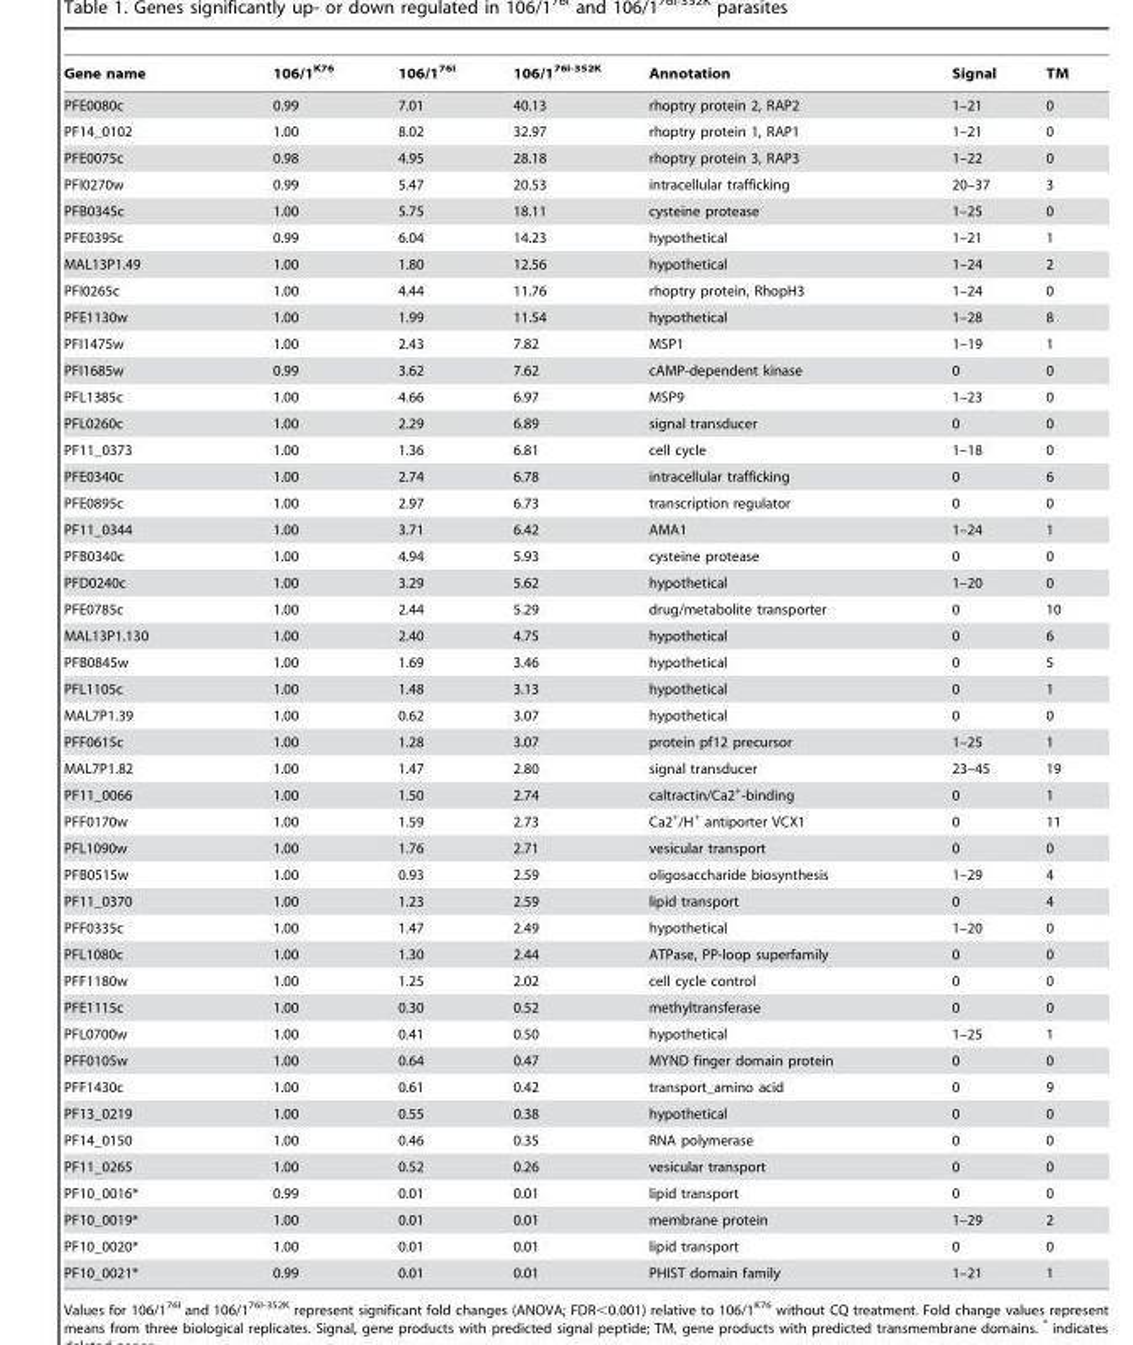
<table><thead><tr><td>Gene name</td><td>106/1<sup>K76</sup></td><td>106/1<sup>76I</sup></td><td>106/1<sup>76I-352K</sup></td><td>Annotation</td><td>Signal</td><td>TM</td></tr></thead><tbody><tr><td>PFE0080c</td><td>0.99</td><td>7.01</td><td>40.13</td><td>rhoptry protein 2, RAP2</td><td>1–21</td><td>0</td></tr><tr><td>PF14_0102</td><td>1.00</td><td>8.02</td><td>32.97</td><td>rhoptry protein 1, RAP1</td><td>1–21</td><td>0</td></tr><tr><td>PFE0075c</td><td>0.98</td><td>4.95</td><td>28.18</td><td>rhoptry protein 3, RAP3</td><td>1–22</td><td>0</td></tr><tr><td>PFI0270w</td><td>0.99</td><td>5.47</td><td>20.53</td><td>intracellular trafficking</td><td>20–37</td><td>3</td></tr><tr><td>PFB0345c</td><td>1.00</td><td>5.75</td><td>18.11</td><td>cysteine protease</td><td>1–25</td><td>0</td></tr><tr><td>PFE0395c</td><td>0.99</td><td>6.04</td><td>14.23</td><td>hypothetical</td><td>1–21</td><td>1</td></tr><tr><td>MAL13P1.49</td><td>1.00</td><td>1.80</td><td>12.56</td><td>hypothetical</td><td>1–24</td><td>2</td></tr><tr><td>PFI0265c</td><td>1.00</td><td>4.44</td><td>11.76</td><td>rhoptry protein, RhopH3</td><td>1–24</td><td>0</td></tr><tr><td>PFE1130w</td><td>1.00</td><td>1.99</td><td>11.54</td><td>hypothetical</td><td>1–28</td><td>8</td></tr><tr><td>PFI1475w</td><td>1.00</td><td>2.43</td><td>7.82</td><td>MSP1</td><td>1–19</td><td>1</td></tr><tr><td>PFI1685w</td><td>0.99</td><td>3.62</td><td>7.62</td><td>cAMP-dependent kinase</td><td>0</td><td>0</td></tr><tr><td>PFL1385c</td><td>1.00</td><td>4.66</td><td>6.97</td><td>MSP9</td><td>1–23</td><td>0</td></tr><tr><td>PFL0260c</td><td>1.00</td><td>2.29</td><td>6.89</td><td>signal transducer</td><td>0</td><td>0</td></tr><tr><td>PF11_0373</td><td>1.00</td><td>1.36</td><td>6.81</td><td>cell cycle</td><td>1–18</td><td>0</td></tr><tr><td>PFE0340c</td><td>1.00</td><td>2.74</td><td>6.78</td><td>intracellular trafficking</td><td>0</td><td>6</td></tr><tr><td>PFE0895c</td><td>1.00</td><td>2.97</td><td>6.73</td><td>transcription regulator</td><td>0</td><td>0</td></tr><tr><td>PF11_0344</td><td>1.00</td><td>3.71</td><td>6.42</td><td>AMA1</td><td>1–24</td><td>1</td></tr><tr><td>PFB0340c</td><td>1.00</td><td>4.94</td><td>5.93</td><td>cysteine protease</td><td>0</td><td>0</td></tr><tr><td>PFD0240c</td><td>1.00</td><td>3.29</td><td>5.62</td><td>hypothetical</td><td>1–20</td><td>0</td></tr><tr><td>PFE0785c</td><td>1.00</td><td>2.44</td><td>5.29</td><td>drug/metabolite transporter</td><td>0</td><td>10</td></tr><tr><td>MAL13P1.130</td><td>1.00</td><td>2.40</td><td>4.75</td><td>hypothetical</td><td>0</td><td>6</td></tr><tr><td>PFB0845w</td><td>1.00</td><td>1.69</td><td>3.46</td><td>hypothetical</td><td>0</td><td>5</td></tr><tr><td>PFL1105c</td><td>1.00</td><td>1.48</td><td>3.13</td><td>hypothetical</td><td>0</td><td>1</td></tr><tr><td>MAL7P1.39</td><td>1.00</td><td>0.62</td><td>3.07</td><td>hypothetical</td><td>0</td><td>0</td></tr><tr><td>PFF0615c</td><td>1.00</td><td>1.28</td><td>3.07</td><td>protein pf12 precursor</td><td>1–25</td><td>1</td></tr><tr><td>MAL7P1.82</td><td>1.00</td><td>1.47</td><td>2.80</td><td>signal transducer</td><td>23–45</td><td>19</td></tr><tr><td>PF11_0066</td><td>1.00</td><td>1.50</td><td>2.74</td><td>caltractin/Ca2<sup>+</sup>-binding</td><td>0</td><td>1</td></tr><tr><td>PFF0170w</td><td>1.00</td><td>1.59</td><td>2.73</td><td>Ca2<sup>+</sup>/H<sup>+</sup> antiporter VCX1</td><td>0</td><td>11</td></tr><tr><td>PFL1090w</td><td>1.00</td><td>1.76</td><td>2.71</td><td>vesicular transport</td><td>0</td><td>0</td></tr><tr><td>PFB0515w</td><td>1.00</td><td>0.93</td><td>2.59</td><td>oligosaccharide biosynthesis</td><td>1–29</td><td>4</td></tr><tr><td>PF11_0370</td><td>1.00</td><td>1.23</td><td>2.59</td><td>lipid transport</td><td>0</td><td>4</td></tr><tr><td>PFF0335c</td><td>1.00</td><td>1.47</td><td>2.49</td><td>hypothetical</td><td>1–20</td><td>0</td></tr><tr><td>PFL1080c</td><td>1.00</td><td>1.30</td><td>2.44</td><td>ATPase, PP-loop superfamily</td><td>0</td><td>0</td></tr><tr><td>PFF1180w</td><td>1.00</td><td>1.25</td><td>2.02</td><td>cell cycle control</td><td>0</td><td>0</td></tr><tr><td>PFE1115c</td><td>1.00</td><td>0.30</td><td>0.52</td><td>methyltransferase</td><td>0</td><td>0</td></tr><tr><td>PFL0700w</td><td>1.00</td><td>0.41</td><td>0.50</td><td>hypothetical</td><td>1–25</td><td>1</td></tr><tr><td>PFF0105w</td><td>1.00</td><td>0.64</td><td>0.47</td><td>MYND finger domain protein</td><td>0</td><td>0</td></tr><tr><td>PFF1430c</td><td>1.00</td><td>0.61</td><td>0.42</td><td>transport_amino acid</td><td>0</td><td>9</td></tr><tr><td>PF13_0219</td><td>1.00</td><td>0.55</td><td>0.38</td><td>hypothetical</td><td>0</td><td>0</td></tr><tr><td>PF14_0150</td><td>1.00</td><td>0.46</td><td>0.35</td><td>RNA polymerase</td><td>0</td><td>0</td></tr><tr><td>PF11_0265</td><td>1.00</td><td>0.52</td><td>0.26</td><td>vesicular transport</td><td>0</td><td>0</td></tr><tr><td>PF10_0016*</td><td>0.99</td><td>0.01</td><td>0.01</td><td>lipid transport</td><td>0</td><td>0</td></tr><tr><td>PF10_0019*</td><td>1.00</td><td>0.01</td><td>0.01</td><td>membrane protein</td><td>1–29</td><td>2</td></tr><tr><td>PF10_0020*</td><td>1.00</td><td>0.01</td><td>0.01</td><td>lipid transport</td><td>0</td><td>0</td></tr><tr><td>PF10_0021*</td><td>0.99</td><td>0.01</td><td>0.01</td><td>PHIST domain family</td><td>1–21</td><td>1</td></tr></tbody></table>